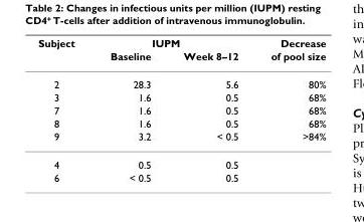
<table><thead><tr><td rowspan="2">Subject</td><td colspan="2">IUPM</td><td rowspan="2">Decrease of pool size</td></tr><tr><td>Baseline</td><td>Week 8–12</td></tr></thead><tbody><tr><td>2</td><td>28.3</td><td>5.6</td><td>80%</td></tr><tr><td>3</td><td>1.6</td><td>0.5</td><td>68%</td></tr><tr><td>7</td><td>1.6</td><td>0.5</td><td>68%</td></tr><tr><td>8</td><td>1.6</td><td>0.5</td><td>68%</td></tr><tr><td>9</td><td>3.2</td><td>&lt; 0.5</td><td>&gt;84%</td></tr><tr><td>4</td><td>0.5</td><td>0.5</td><td></td></tr><tr><td>6</td><td>&lt; 0.5</td><td>0.5</td><td></td></tr></tbody></table>